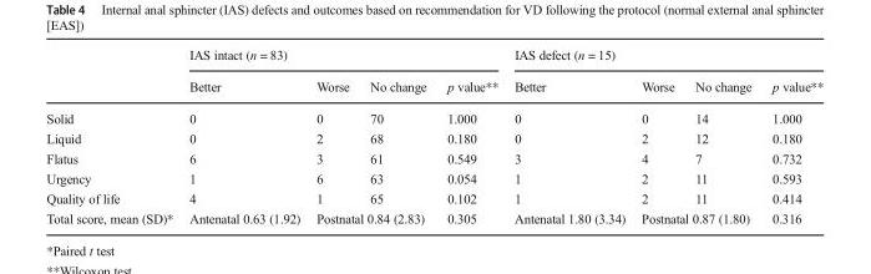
<table><thead><tr><td rowspan="2"></td><td colspan="4">IAS intact (n = 83)</td><td colspan="4">IAS defect (n = 15)</td></tr><tr><td>Better</td><td>Worse</td><td>No change</td><td>p value**</td><td>Better</td><td>Worse</td><td>No change</td><td>p value**</td></tr></thead><tbody><tr><td>Solid</td><td>0</td><td>0</td><td>70</td><td>1.000</td><td>0</td><td>0</td><td>14</td><td>1.000</td></tr><tr><td>Liquid</td><td>0</td><td>2</td><td>68</td><td>0.180</td><td>0</td><td>2</td><td>12</td><td>0.180</td></tr><tr><td>Flatus</td><td>6</td><td>3</td><td>61</td><td>0.549</td><td>3</td><td>4</td><td>7</td><td>0.732</td></tr><tr><td>Urgency</td><td>1</td><td>6</td><td>63</td><td>0.054</td><td>1</td><td>2</td><td>11</td><td>0.593</td></tr><tr><td>Quality of life</td><td>4</td><td>1</td><td>65</td><td>0.102</td><td>1</td><td>2</td><td>11</td><td>0.414</td></tr><tr><td>Total score, mean (SD)*</td><td>Antenatal 0.63 (1.92)</td><td colspan="2">Postnatal 0.84 (2.83)</td><td>0.305</td><td>Antenatal 1.80 (3.34)</td><td colspan="2">Postnatal 0.87 (1.80)</td><td>0.316</td></tr></tbody></table>